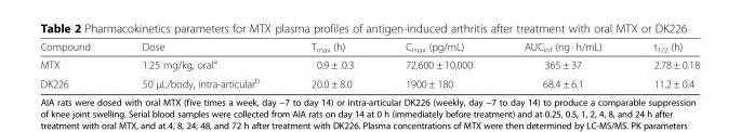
<table><thead><tr><td>Compound</td><td>Dose</td><td>T<sub>max</sub> (h)</td><td>C<sub>max</sub> (pg/mL)</td><td>AUC<sub>inf</sub> (ng · h/mL)</td><td>t<sub>1/2</sub> (h)</td></tr></thead><tbody><tr><td>MTX</td><td>1.25 mg/kg, oral<sup>a</sup></td><td>0.9 ± .0.3</td><td>72,600 ± 10,000</td><td>365 ± 37</td><td>2.78 ± 0.18</td></tr><tr><td>DK226</td><td>50 μL/body, intra-articular<sup>b</sup></td><td>20.0 ± 8.0</td><td>1900 ± 180</td><td>68.4 ± 6.1</td><td>11.2 ± 0.4</td></tr></tbody></table>